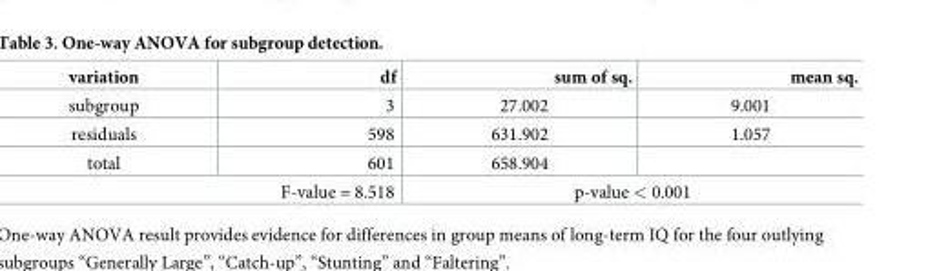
<table><thead><tr><td>variation</td><td>df</td><td>sum of sq.</td><td>mean sq.</td></tr></thead><tbody><tr><td>subgroup</td><td>3</td><td>27.002</td><td>9.001</td></tr><tr><td>residuals</td><td>598</td><td>631.902</td><td>1.057</td></tr><tr><td>total</td><td>601</td><td>658.904</td><td></td></tr><tr><td colspan="2">F-value = 8.518</td><td colspan="2">p-value &lt; 0.001</td></tr></tbody></table>